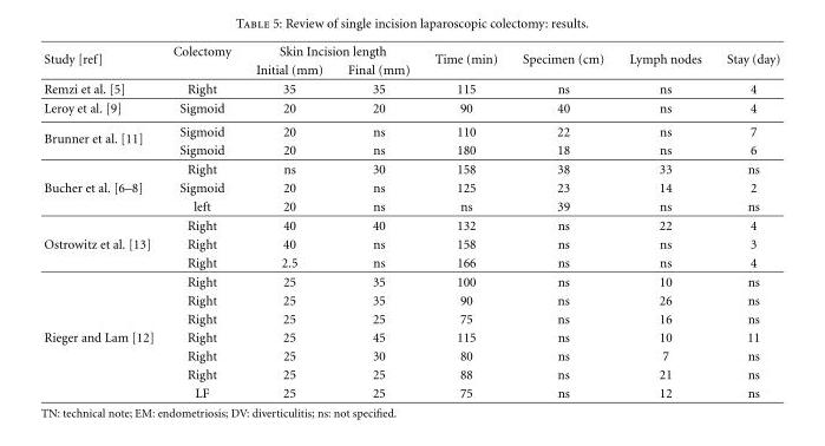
<table><thead><tr><td rowspan="2">Study [ref]</td><td rowspan="2">Colectomy</td><td colspan="2">Skin Incision length</td><td rowspan="2">Time (min)</td><td rowspan="2">Specimen (cm)</td><td rowspan="2">Lymph nodes</td><td rowspan="2">Stay (day)</td></tr><tr><td>Initial (mm)</td><td>Final (mm)</td></tr></thead><tbody><tr><td>Remzi et al. [5]</td><td>Right</td><td>35</td><td>35</td><td>115</td><td>ns</td><td>ns</td><td>4</td></tr><tr><td>Leroy et al. [9]</td><td>Sigmoid</td><td>20</td><td>20</td><td>90</td><td>40</td><td>ns</td><td>4</td></tr><tr><td rowspan="3">Brunner et al. [11]</td><td>Sigmoid</td><td>20</td><td>ns</td><td>110</td><td>22</td><td>ns</td><td>7</td></tr><tr><td>Sigmoid</td><td>20</td><td>ns</td><td>180</td><td>18</td><td>ns</td><td>6</td></tr><tr><td>Right</td><td>ns</td><td>30</td><td>158</td><td>38</td><td>33</td><td>ns</td></tr><tr><td rowspan="3">Bucher et al. [6–8]</td><td>Sigmoid</td><td>20</td><td>ns</td><td>125</td><td>23</td><td>14</td><td>2</td></tr><tr><td>left</td><td>20</td><td>ns</td><td>ns</td><td>39</td><td>ns</td><td>ns</td></tr><tr><td>Right</td><td>40</td><td>40</td><td>132</td><td>ns</td><td>22</td><td>4</td></tr><tr><td rowspan="5">Ostrowitz et al. [13]</td><td>Right</td><td>40</td><td>ns</td><td>158</td><td>ns</td><td>ns</td><td>3</td></tr><tr><td>Right</td><td>2.5</td><td>ns</td><td>166</td><td>ns</td><td>ns</td><td>4</td></tr><tr><td>Right</td><td>25</td><td>35</td><td>100</td><td>ns</td><td>10</td><td>ns</td></tr><tr><td>Right</td><td>25</td><td>35</td><td>90</td><td>ns</td><td>26</td><td>ns</td></tr><tr><td>Right</td><td>25</td><td>25</td><td>75</td><td>ns</td><td>16</td><td>ns</td></tr><tr><td rowspan="4">Rieger and Lam [12]</td><td>Right</td><td>25</td><td>45</td><td>115</td><td>ns</td><td>10</td><td>11</td></tr><tr><td>Right</td><td>25</td><td>30</td><td>80</td><td>ns</td><td>7</td><td>ns</td></tr><tr><td>Right</td><td>25</td><td>25</td><td>88</td><td>ns</td><td>21</td><td>ns</td></tr><tr><td>LF</td><td>25</td><td>25</td><td>75</td><td>ns</td><td>12</td><td>ns</td></tr></tbody></table>